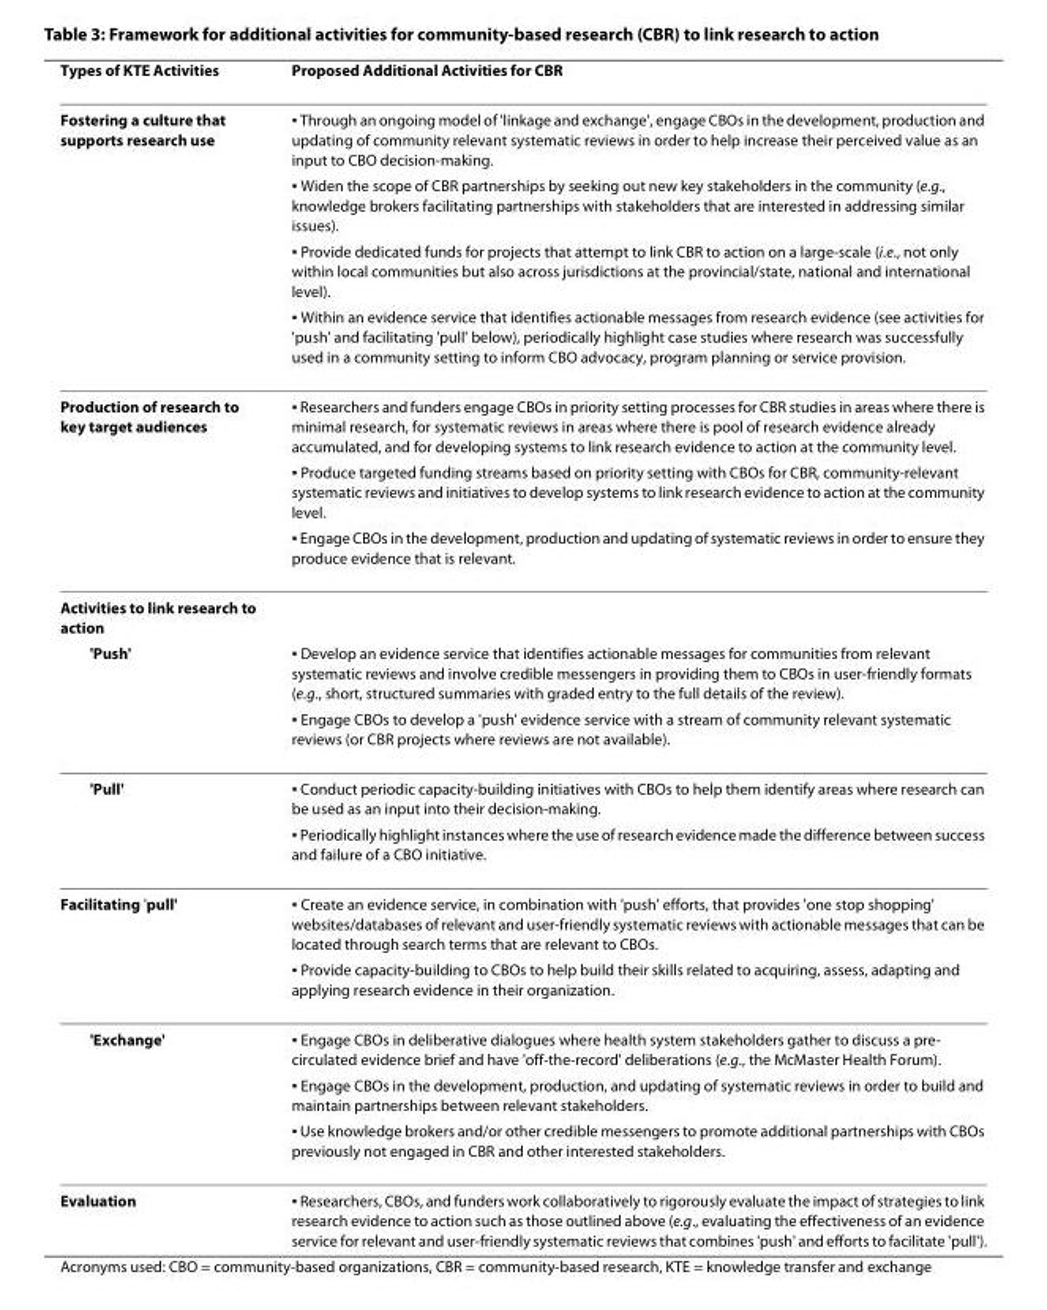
<table><thead><tr><td>Types of KTE Activities</td><td>Proposed Additional Activities for CBR</td></tr></thead><tbody><tr><td rowspan="4">Fostering a culture that supports research use</td><td>▪ Through an ongoing model of &#x27;linkage and exchange&#x27;, engage CBOs in the development, production and updating of community relevant systematic reviews in order to help increase their perceived value as an input to CBO decision-making.</td></tr><tr><td>▪ Widen the scope of CBR partnerships by seeking out new key stakeholders in the community (e.g., knowledge brokers facilitating partnerships with stakeholders that are interested in addressing similar issues).</td></tr><tr><td>▪ Provide dedicated funds for projects that attempt to link CBR to action on a large-scale (i.e., not only within local communities but also across jurisdictions at the provincial/state, national and international level).</td></tr><tr><td>▪ Within an evidence service that identifies actionable messages from research evidence (see activities for &#x27;push&#x27; and facilitating &#x27;pull&#x27; below), periodically highlight case studies where research was successfully used in a community setting to inform CBO advocacy, program planning or service provision.</td></tr><tr><td rowspan="3">Production of research to key target audiences</td><td>▪ Researchers and funders engage CBOs in priority setting processes for CBR studies in areas where there is minimal research, for systematic reviews in areas where there is pool of research evidence already accumulated, and for developing systems to link research evidence to action at the community level.</td></tr><tr><td>▪ Produce targeted funding streams based on priority setting with CBOs for CBR, community-relevant systematic reviews and initiatives to develop systems to link research evidence to action at the community level.</td></tr><tr><td>▪ Engage CBOs in the development, production and updating of systematic reviews in order to ensure they produce evidence that is relevant.</td></tr><tr><td colspan="2">Activities to link research to action</td></tr><tr><td rowspan="2">&#x27;Push&#x27;</td><td>▪ Develop an evidence service that identifies actionable messages for communities from relevant systematic reviews and involve credible messengers in providing them to CBOs in user-friendly formats (e.g., short, structured summaries with graded entry to the full details of the review).</td></tr><tr><td>▪ Engage CBOs to develop a &#x27;push&#x27; evidence service with a stream of community relevant systematic reviews (or CBR projects where reviews are not available).</td></tr><tr><td rowspan="2">&#x27;Pull&#x27;</td><td>▪ Conduct periodic capacity-building initiatives with CBOs to help them identify areas where research can be used as an input into their decision-making.</td></tr><tr><td>▪ Periodically highlight instances where the use of research evidence made the difference between success and failure of a CBO initiative.</td></tr><tr><td rowspan="2">Facilitating &#x27;pull&#x27;</td><td>▪ Create an evidence service, in combination with &#x27;push&#x27; efforts, that provides &#x27;one stop shopping&#x27; websites/databases of relevant and user-friendly systematic reviews with actionable messages that can be located through search terms that are relevant to CBOs.</td></tr><tr><td>▪ Provide capacity-building to CBOs to help build their skills related to acquiring, assess, adapting and applying research evidence in their organization.</td></tr><tr><td rowspan="3">&#x27;Exchange&#x27;</td><td>▪ Engage CBOs in deliberative dialogues where health system stakeholders gather to discuss a pre- circulated evidence brief and have &#x27;off-the-record&#x27; deliberations (e.g., the McMaster Health Forum).</td></tr><tr><td>▪ Engage CBOs in the development, production, and updating of systematic reviews in order to build and maintain partnerships between relevant stakeholders.</td></tr><tr><td>▪ Use knowledge brokers and/or other credible messengers to promote additional partnerships with CBOs previously not engaged in CBR and other interested stakeholders.</td></tr><tr><td>Evaluation</td><td>▪ Researchers, CBOs, and funders work collaboratively to rigorously evaluate the impact of strategies to link research evidence to action such as those outlined above (e.g., evaluating the effectiveness of an evidence service for relevant and user-friendly systematic reviews that combines &#x27;push&#x27; and efforts to facilitate &#x27;pull&#x27;).</td></tr></tbody></table>